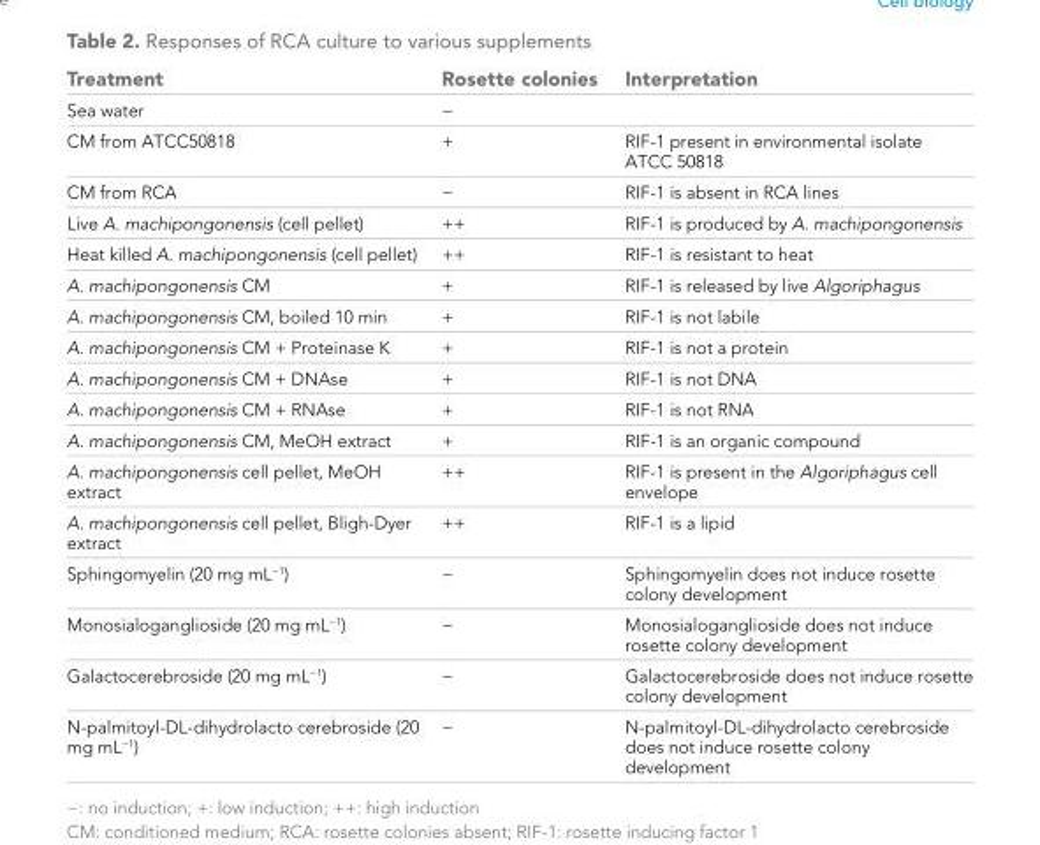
<table><thead><tr><td>Treatment</td><td>Rosette colonies</td><td>Interpretation</td></tr></thead><tbody><tr><td>Sea water</td><td>−</td><td></td></tr><tr><td>CM from ATCC50818</td><td>+</td><td>RIF-1 present in environmental isolate ATCC 50818</td></tr><tr><td>CM from RCA</td><td>−</td><td>RIF-1 is absent in RCA lines</td></tr><tr><td>Live A. machipongonensis (cell pellet)</td><td>++</td><td>RIF-1 is produced by A. machipongonensis</td></tr><tr><td>Heat killed A. machipongonensis (cell pellet)</td><td>++</td><td>RIF-1 is resistant to heat</td></tr><tr><td>A. machipongonensis CM</td><td>+</td><td>RIF-1 is released by live Algoriphagus</td></tr><tr><td>A. machipongonensis CM, boiled 10 min</td><td>+</td><td>RIF-1 is not labile</td></tr><tr><td>A. machipongonensis CM + Proteinase K</td><td>+</td><td>RIF-1 is not a protein</td></tr><tr><td>A. machipongonensis CM + DNAse</td><td>+</td><td>RIF-1 is not DNA</td></tr><tr><td>A. machipongonensis CM + RNAse</td><td>+</td><td>RIF-1 is not RNA</td></tr><tr><td>A. machipongonensis CM, MeOH extract</td><td>+</td><td>RIF-1 is an organic compound</td></tr><tr><td>A. machipongonensis cell pellet, MeOH extract</td><td>++</td><td>RIF-1 is present in the Algoriphagus cell envelope</td></tr><tr><td>A. machipongonensis cell pellet, Bligh-Dyer extract</td><td>++</td><td>RIF-1 is a lipid</td></tr><tr><td>Sphingomyelin (20 mg mL<sup>−1</sup>)</td><td>−</td><td>Sphingomyelin does not induce rosette colony development</td></tr><tr><td>Monosialoganglioside (20 mg mL<sup>−1</sup>)</td><td>−</td><td>Monosialoganglioside does not induce rosette colony development</td></tr><tr><td>Galactocerebroside (20 mg mL<sup>−1</sup>)</td><td>−</td><td>Galactocerebroside does not induce rosette colony development</td></tr><tr><td>N-palmitoyl-DL-dihydrolacto cerebroside (20 mg mL<sup>−1</sup>)</td><td>−</td><td>N-palmitoyl-DL-dihydrolacto cerebroside does not induce rosette colony development</td></tr></tbody></table>